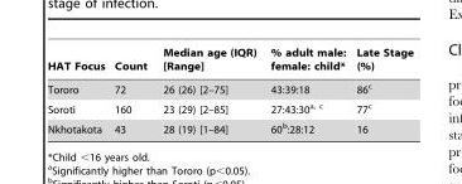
<table><thead><tr><td>HAT Focus</td><td>Count</td><td>Median age (IQR) [Range]</td><td>% adult male: female: child*</td><td>Late Stage (%)</td></tr></thead><tbody><tr><td>Tororo</td><td>72</td><td>26 (26) [2–75]</td><td>43:39:18</td><td>86<sup>c</sup></td></tr><tr><td>Soroti</td><td>160</td><td>23 (29) [2–85]</td><td>27:43:30a, c</td><td>77<sup>c</sup></td></tr><tr><td>Nkhotakota</td><td>43</td><td>28 (19) [1–84]</td><td>60b:28:12</td><td>16</td></tr></tbody></table>